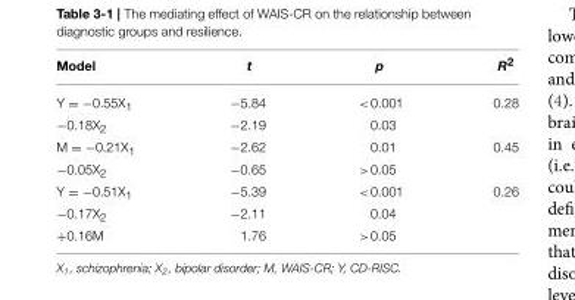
<table><thead><tr><td>Model</td><td>t</td><td>p</td><td>R<sup>2</sup></td></tr></thead><tbody><tr><td>Y = −0.55X<sub>1</sub></td><td>−5.84</td><td>&lt;0.001</td><td>0.28</td></tr><tr><td>−0.18X<sub>2</sub></td><td>−2.19</td><td>0.03</td><td></td></tr><tr><td>M = −0.21X<sub>1</sub></td><td>−2.62</td><td>0.01</td><td>0.45</td></tr><tr><td>−0.05X<sub>2</sub></td><td>−0.65</td><td>&gt;0.05</td><td></td></tr><tr><td>Y = −0.51X<sub>1</sub></td><td>−5.39</td><td>&lt;0.001</td><td>0.26</td></tr><tr><td>−0.17X<sub>2</sub></td><td>−2.11</td><td>0.04</td><td></td></tr><tr><td>+0.16M</td><td>1.76</td><td>&gt;0.05</td><td></td></tr></tbody></table>